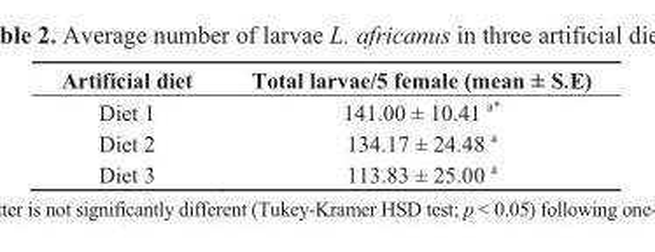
<table><thead><tr><td>Artificial diet</td><td>Total larvae/5 female (mean ± S.E)</td></tr></thead><tbody><tr><td>Diet 1</td><td>141.00 ± 10.41 <sup>a*</sup></td></tr><tr><td>Diet 2</td><td>134.17 ± 24.48 <sup>a</sup></td></tr><tr><td>Diet 3</td><td>113.83 ± 25.00 <sup>a</sup></td></tr></tbody></table>